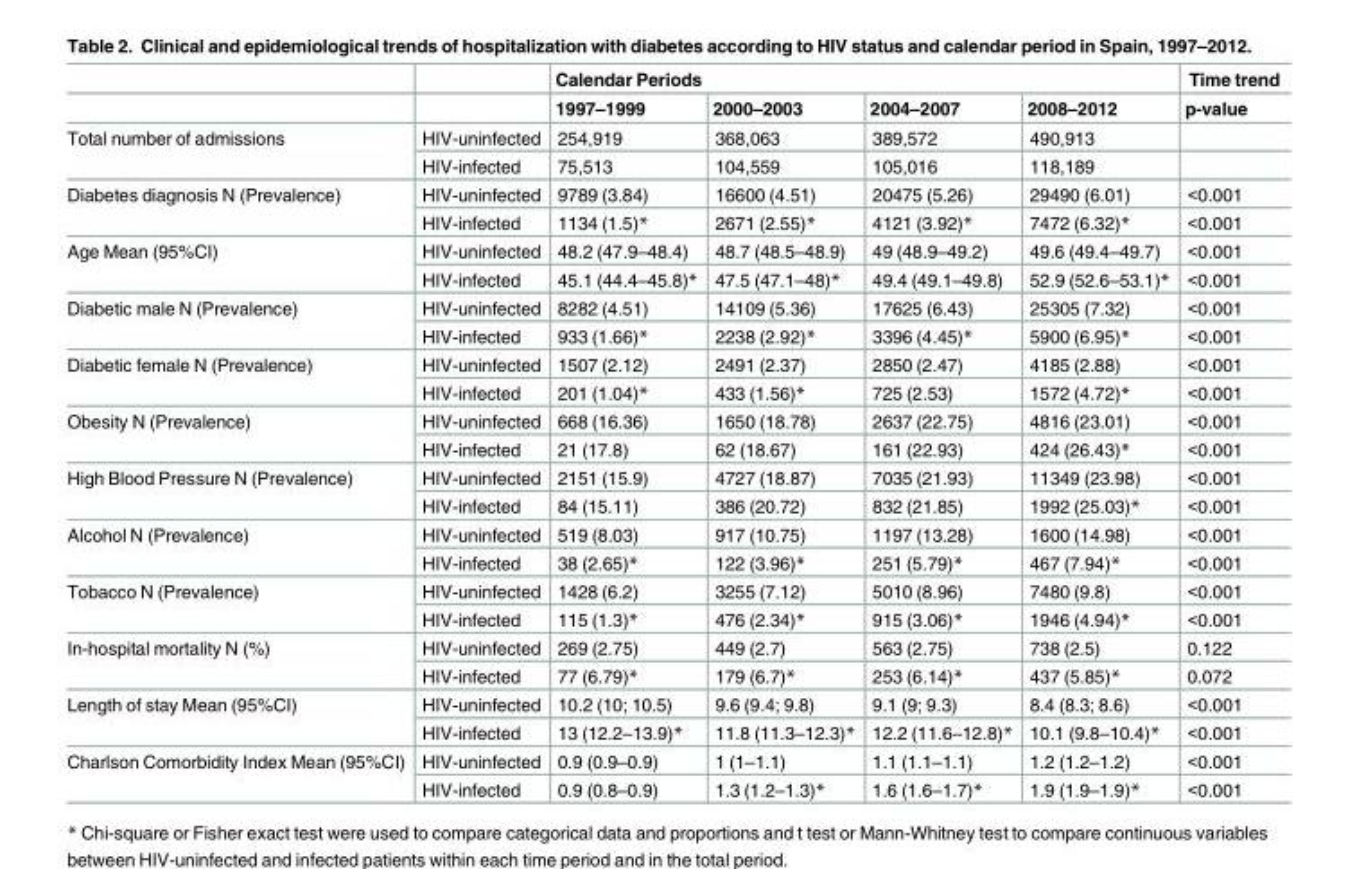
<table><thead><tr><td rowspan="2"></td><td rowspan="2"></td><td colspan="4">Calendar Periods</td><td rowspan="2">Time trend p-value</td></tr><tr><td>1997–1999</td><td>2000–2003</td><td>2004–2007</td><td>2008–2012</td></tr></thead><tbody><tr><td rowspan="2">Total number of admissions</td><td>HIV-uninfected</td><td>254,919</td><td>368,063</td><td>389,572</td><td>490,913</td><td></td></tr><tr><td>HIV-infected</td><td>75,513</td><td>104,559</td><td>105,016</td><td>118,189</td><td></td></tr><tr><td rowspan="2">Diabetes diagnosis N (Prevalence)</td><td>HIV-uninfected</td><td>9789 (3.84)</td><td>16600 (4.51)</td><td>20475 (5.26)</td><td>29490 (6.01)</td><td>&lt;0.001</td></tr><tr><td>HIV-infected</td><td>1134 (1.5)*</td><td>2671 (2.55)*</td><td>4121 (3.92)*</td><td>7472 (6.32)*</td><td>&lt;0.001</td></tr><tr><td rowspan="2">Age Mean (95%CI)</td><td>HIV-uninfected</td><td>48.2 (47.9–48.4)</td><td>48.7 (48.5–48.9)</td><td>49 (48.9–49.2)</td><td>49.6 (49.4–49.7)</td><td>&lt;0.001</td></tr><tr><td>HIV-infected</td><td>45.1 (44.4–45.8)*</td><td>47.5 (47.1–48)*</td><td>49.4 (49.1–49.8)</td><td>52.9 (52.6–53.1)*</td><td>&lt;0.001</td></tr><tr><td rowspan="2">Diabetic male N (Prevalence)</td><td>HIV-uninfected</td><td>8282 (4.51)</td><td>14109 (5.36)</td><td>17625 (6.43)</td><td>25305 (7.32)</td><td>&lt;0.001</td></tr><tr><td>HIV-infected</td><td>933 (1.66)*</td><td>2238 (2.92)*</td><td>3396 (4.45)*</td><td>5900 (6.95)*</td><td>&lt;0.001</td></tr><tr><td rowspan="2">Diabetic female N (Prevalence)</td><td>HIV-uninfected</td><td>1507 (2.12)</td><td>2491 (2.37)</td><td>2850 (2.47)</td><td>4185 (2.88)</td><td>&lt;0.001</td></tr><tr><td>HIV-infected</td><td>201 (1.04)*</td><td>433 (1.56)*</td><td>725 (2.53)</td><td>1572 (4.72)*</td><td>&lt;0.001</td></tr><tr><td rowspan="2">Obesity N (Prevalence)</td><td>HIV-uninfected</td><td>668 (16.36)</td><td>1650 (18.78)</td><td>2637 (22.75)</td><td>4816 (23.01)</td><td>&lt;0.001</td></tr><tr><td>HIV-infected</td><td>21 (17.8)</td><td>62 (18.67)</td><td>161 (22.93)</td><td>424 (26.43)*</td><td>&lt;0.001</td></tr><tr><td rowspan="2">High Blood Pressure N (Prevalence)</td><td>HIV-uninfected</td><td>2151 (15.9)</td><td>4727 (18.87)</td><td>7035 (21.93)</td><td>11349 (23.98)</td><td>&lt;0.001</td></tr><tr><td>HIV-infected</td><td>84 (15.11)</td><td>386 (20.72)</td><td>832 (21.85)</td><td>1992 (25.03)*</td><td>&lt;0.001</td></tr><tr><td rowspan="2">Alcohol N (Prevalence)</td><td>HIV-uninfected</td><td>519 (8.03)</td><td>917 (10.75)</td><td>1197 (13.28)</td><td>1600 (14.98)</td><td>&lt;0.001</td></tr><tr><td>HIV-infected</td><td>38 (2.65)*</td><td>122 (3.96)*</td><td>251 (5.79)*</td><td>467 (7.94)*</td><td>&lt;0.001</td></tr><tr><td rowspan="2">Tobacco N (Prevalence)</td><td>HIV-uninfected</td><td>1428 (6.2)</td><td>3255 (7.12)</td><td>5010 (8.96)</td><td>7480 (9.8)</td><td>&lt;0.001</td></tr><tr><td>HIV-infected</td><td>115 (1.3)*</td><td>476 (2.34)*</td><td>915 (3.06)*</td><td>1946 (4.94)*</td><td>&lt;0.001</td></tr><tr><td rowspan="2">In-hospital mortality N (%)</td><td>HIV-uninfected</td><td>269 (2.75)</td><td>449 (2.7)</td><td>563 (2.75)</td><td>738 (2.5)</td><td>0.122</td></tr><tr><td>HIV-infected</td><td>77 (6.79)*</td><td>179 (6.7)*</td><td>253 (6.14)*</td><td>437 (5.85)*</td><td>0.072</td></tr><tr><td rowspan="2">Length of stay Mean (95%CI)</td><td>HIV-uninfected</td><td>10.2 (10; 10.5)</td><td>9.6 (9.4; 9.8)</td><td>9.1 (9; 9.3)</td><td>8.4 (8.3; 8.6)</td><td>&lt;0.001</td></tr><tr><td>HIV-infected</td><td>13 (12.2–13.9)*</td><td>11.8 (11.3–12.3)*</td><td>12.2 (11.6–12.8)*</td><td>10.1 (9.8–10.4)*</td><td>&lt;0.001</td></tr><tr><td rowspan="2">Charlson Comorbidity Index Mean (95%CI)</td><td>HIV-uninfected</td><td>0.9 (0.9–0.9)</td><td>1 (1–1.1)</td><td>1.1 (1.1–1.1)</td><td>1.2 (1.2–1.2)</td><td>&lt;0.001</td></tr><tr><td>HIV-infected</td><td>0.9 (0.8–0.9)</td><td>1.3 (1.2–1.3)*</td><td>1.6 (1.6–1.7)*</td><td>1.9 (1.9–1.9)*</td><td>&lt;0.001</td></tr></tbody></table>